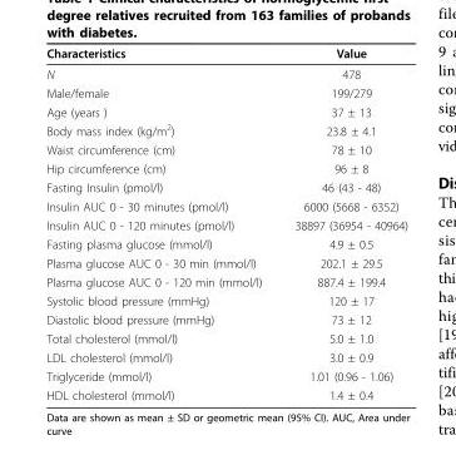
<table><thead><tr><td>Characteristics</td><td>Value</td></tr></thead><tbody><tr><td>N</td><td>478</td></tr><tr><td>Male/female</td><td>199/279</td></tr><tr><td>Age (years )</td><td>37 ± 13</td></tr><tr><td>Body mass index (kg/m<sup>2</sup>)</td><td>23.8 ± 4.1</td></tr><tr><td>Waist circumference (cm)</td><td>78 ± 10</td></tr><tr><td>Hip circumference (cm)</td><td>96 ± 8</td></tr><tr><td>Fasting Insulin (pmol/l)</td><td>46 (43 - 48)</td></tr><tr><td>Insulin AUC 0 - 30 minutes (pmol/l)</td><td>6000 (5668 - 6352)</td></tr><tr><td>Insulin AUC 0 - 120 minutes (pmol/l)</td><td>38897 (36954 - 40964)</td></tr><tr><td>Fasting plasma glucose (mmol/l)</td><td>4.9 ± 0.5</td></tr><tr><td>Plasma glucose AUC 0 - 30 min (mmol/l)</td><td>202.1 ± 29.5</td></tr><tr><td>Plasma glucose AUC 0 - 120 min (mmol/l)</td><td>887.4 ± 199.4</td></tr><tr><td>Systolic blood pressure (mmHg)</td><td>120 ± 17</td></tr><tr><td>Diastolic blood pressure (mmHg)</td><td>73 ± 12</td></tr><tr><td>Total cholesterol (mmol/l)</td><td>5.0 ± 1.0</td></tr><tr><td>LDL cholesterol (mmol/l)</td><td>3.0 ± 0.9</td></tr><tr><td>Triglyceride (mmol/l)</td><td>1.01 (0.96 - 1.06)</td></tr><tr><td>HDL cholesterol (mmol/l)</td><td>1.4 ± 0.4</td></tr></tbody></table>